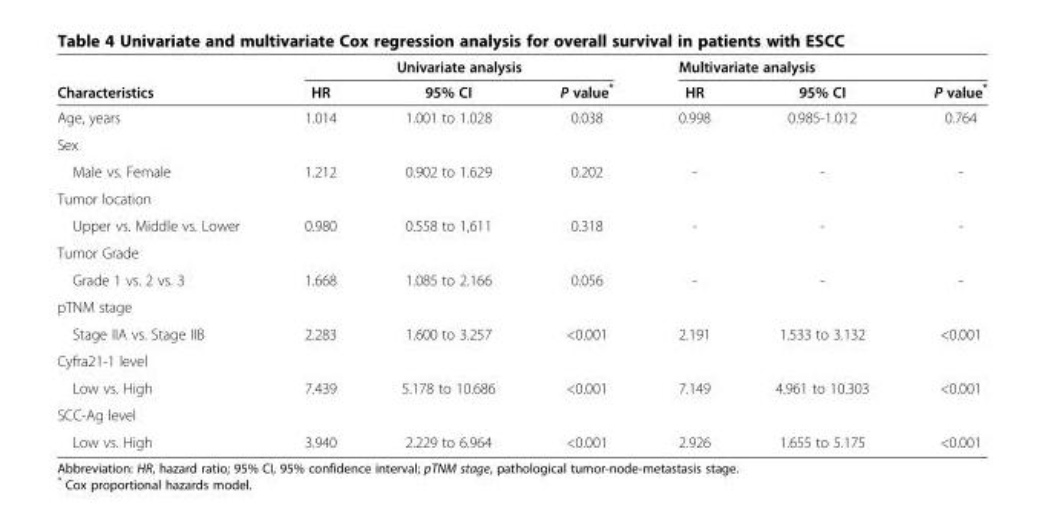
<table><thead><tr><td rowspan="2">Characteristics</td><td colspan="3">Univariate analysis</td><td colspan="3">Multivariate analysis</td></tr><tr><td>HR</td><td>95% CI</td><td>P value*</td><td>HR</td><td>95% CI</td><td>P value*</td></tr></thead><tbody><tr><td>Age, years</td><td>1.014</td><td>1.001 to 1.028</td><td>0.038</td><td>0.998</td><td>0.985-1.012</td><td>0.764</td></tr><tr><td colspan="7">Sex</td></tr><tr><td>Male vs. Female</td><td>1.212</td><td>0.902 to 1.629</td><td>0.202</td><td>-</td><td>-</td><td>-</td></tr><tr><td colspan="7">Tumor location</td></tr><tr><td>Upper vs. Middle vs. Lower</td><td>0.980</td><td>0.558 to 1,611</td><td>0.318</td><td>-</td><td>-</td><td>-</td></tr><tr><td colspan="7">Tumor Grade</td></tr><tr><td>Grade 1 vs. 2 vs. 3</td><td>1.668</td><td>1.085 to 2.166</td><td>0.056</td><td>-</td><td>-</td><td>-</td></tr><tr><td colspan="7">pTNM stage</td></tr><tr><td>Stage IIA vs. Stage IIB</td><td>2.283</td><td>1.600 to 3.257</td><td>&lt;0.001</td><td>2.191</td><td>1.533 to 3.132</td><td>&lt;0.001</td></tr><tr><td colspan="7">Cyfra21-1 level</td></tr><tr><td>Low vs. High</td><td>7.439</td><td>5.178 to 10.686</td><td>&lt;0.001</td><td>7.149</td><td>4.961 to 10.303</td><td>&lt;0.001</td></tr><tr><td colspan="7">SCC-Ag level</td></tr><tr><td>Low vs. High</td><td>3.940</td><td>2.229 to 6.964</td><td>&lt;0.001</td><td>2.926</td><td>1.655 to 5.175</td><td>&lt;0.001</td></tr></tbody></table>